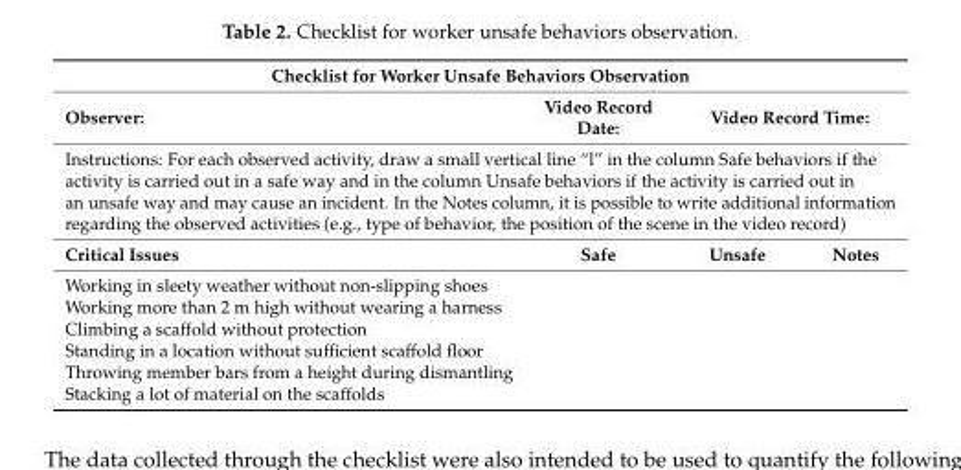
<table><thead><tr><td colspan="4">Checklist for Worker Unsafe Behaviors Observation</td></tr><tr><td>Observer:</td><td>Video Record Date:</td><td colspan="2">Video Record Time:</td></tr><tr><td colspan="4">Instructions: For each observed activity, draw a small vertical line “l” in the column Safe behaviors if the activity is carried out in a safe way and in the column Unsafe behaviors if the activity is carried out in an unsafe way and may cause an incident. In the Notes column, it is possible to write additional information regarding the observed activities (e.g., type of behavior, the position of the scene in the video record)</td></tr><tr><td>Critical Issues</td><td>Safe</td><td>Unsafe</td><td>Notes</td></tr></thead><tbody><tr><td colspan="4">Working in sleety weather without non-slipping shoes</td></tr><tr><td colspan="4">Working more than 2 m high without wearing a harness</td></tr><tr><td colspan="4">Climbing a scaffold without protection</td></tr><tr><td colspan="4">Standing in a location without sufficient scaffold floor</td></tr><tr><td colspan="4">Throwing member bars from a height during dismantling</td></tr><tr><td>Stacking a lot of material on the scaffolds</td><td></td><td></td><td></td></tr></tbody></table>